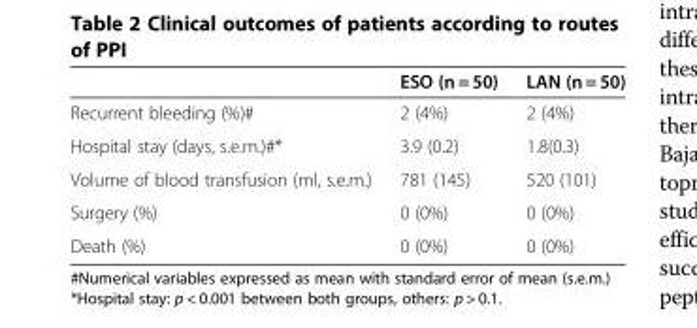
<table><thead><tr><td></td><td>ESO (n = 50)</td><td>LAN (n = 50)</td></tr></thead><tbody><tr><td>Recurrent bleeding (%)#</td><td>2 (4%)</td><td>2 (4%)</td></tr><tr><td>Hospital stay (days, s.e.m.)#*</td><td>3.9 (0.2)</td><td>1.8(0.3)</td></tr><tr><td>Volume of blood transfusion (ml, s.e.m.)</td><td>781 (145)</td><td>520 (101)</td></tr><tr><td>Surgery (%)</td><td>0 (0%)</td><td>0 (0%)</td></tr><tr><td>Death (%)</td><td>0 (0%)</td><td>0 (0%)</td></tr></tbody></table>